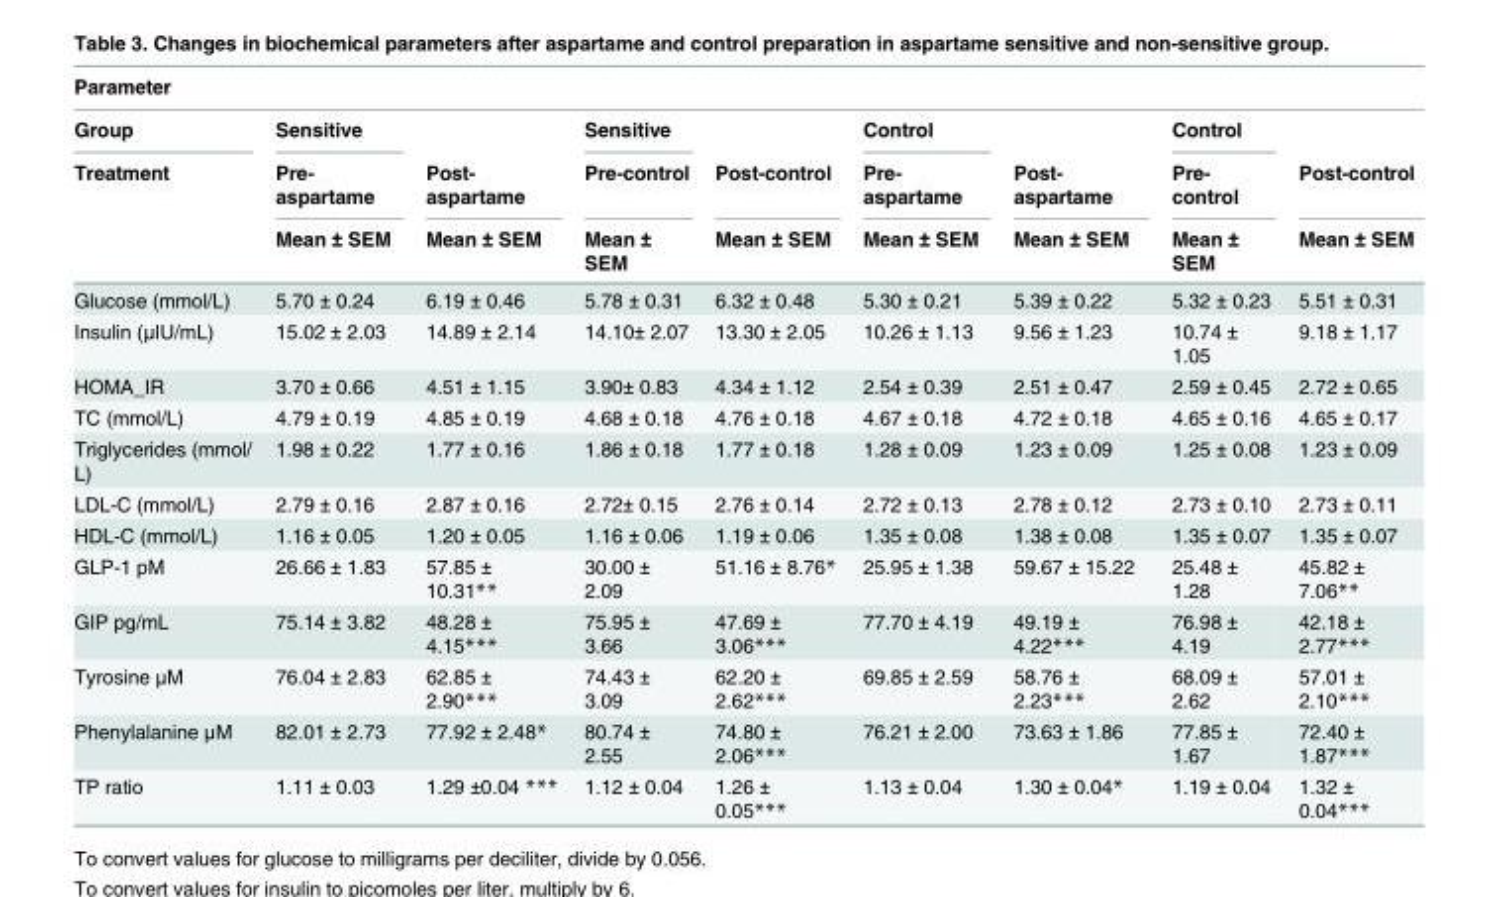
<table><thead><tr><td colspan="9">Parameter</td></tr><tr><td rowspan="3">Group Treatment</td><td rowspan="3">Sensitive Pre- aspartame Mean ± SEM</td><td rowspan="3">Post- aspartame Mean ± SEM</td><td rowspan="3">Sensitive Pre-control Mean ± SEM</td><td rowspan="3">Post-control Mean ± SEM</td><td rowspan="3">Control Pre- aspartame Mean ± SEM</td><td rowspan="3">Post- aspartame Mean ± SEM</td><td rowspan="3">Control Pre- control Mean ± SEM</td><td rowspan="3">Post-control Mean ± SEM</td></tr><tr></tr><tr></tr></thead><tbody><tr><td>Glucose (mmol/L)</td><td>5.70 ± 0.24</td><td>6.19 ± 0.46</td><td>5.78 ± 0.31</td><td>6.32 ± 0.48</td><td>5.30 ± 0.21</td><td>5.39 ± 0.22</td><td>5.32 ± 0.23</td><td>5.51 ± 0.31</td></tr><tr><td>Insulin (μIU/mL)</td><td>15.02 ± 2.03</td><td>14.89 ± 2.14</td><td>14.10± 2.07</td><td>13.30 ± 2.05</td><td>10.26 ± 1.13</td><td>9.56 ± 1.23</td><td>10.74 ± 1.05</td><td>9.18 ± 1.17</td></tr><tr><td>HOMA_IR</td><td>3.70 ± 0.66</td><td>4.51 ± 1.15</td><td>3.90± 0.83</td><td>4.34 ± 1.12</td><td>2.54 ± 0.39</td><td>2.51 ± 0.47</td><td>2.59 ± 0.45</td><td>2.72 ± 0.65</td></tr><tr><td>TC (mmol/L)</td><td>4.79 ± 0.19</td><td>4.85 ± 0.19</td><td>4.68 ± 0.18</td><td>4.76 ± 0.18</td><td>4.67 ± 0.18</td><td>4.72 ± 0.18</td><td>4.65 ± 0.16</td><td>4.65 ± 0.17</td></tr><tr><td>Triglycerides (mmol/ L)</td><td>1.98 ± 0.22</td><td>1.77 ± 0.16</td><td>1.86 ± 0.18</td><td>1.77 ± 0.18</td><td>1.28 ± 0.09</td><td>1.23 ± 0.09</td><td>1.25 ± 0.08</td><td>1.23 ± 0.09</td></tr><tr><td>LDL-C (mmol/L)</td><td>2.79 ± 0.16</td><td>2.87 ± 0.16</td><td>2.72± 0.15</td><td>2.76 ± 0.14</td><td>2.72 ± 0.13</td><td>2.78 ± 0.12</td><td>2.73 ± 0.10</td><td>2.73 ± 0.11</td></tr><tr><td>HDL-C (mmol/L)</td><td>1.16 ± 0.05</td><td>1.20 ± 0.05</td><td>1.16 ± 0.06</td><td>1.19 ± 0.06</td><td>1.35 ± 0.08</td><td>1.38 ± 0.08</td><td>1.35 ± 0.07</td><td>1.35 ± 0.07</td></tr><tr><td>GLP-1 pM</td><td>26.66 ± 1.83</td><td>57.85 ± 10.31**</td><td>30.00 ± 2.09</td><td>51.16 ± 8.76*</td><td>25.95 ± 1.38</td><td>59.67 ± 15.22</td><td>25.48 ± 1.28</td><td>45.82 ± 7.06**</td></tr><tr><td>GIP pg/mL</td><td>75.14 ± 3.82</td><td>48.28 ± 4.15***</td><td>75.95 ± 3.66</td><td>47.69 ± 3.06***</td><td>77.70 ± 4.19</td><td>49.19 ± 4.22***</td><td>76.98 ± 4.19</td><td>42.18 ± 2.77***</td></tr><tr><td>Tyrosine μM</td><td>76.04 ± 2.83</td><td>62.85 ± 2.90***</td><td>74.43 ± 3.09</td><td>62.20 ± 2.62***</td><td>69.85 ± 2.59</td><td>58.76 ± 2.23***</td><td>68.09 ± 2.62</td><td>57.01 ± 2.10***</td></tr><tr><td>Phenylalanine μM</td><td>82.01 ± 2.73</td><td>77.92 ± 2.48*</td><td>80.74 ± 2.55</td><td>74.80 ± 2.06***</td><td>76.21 ± 2.00</td><td>73.63 ± 1.86</td><td>77.85 ± 1.67</td><td>72.40 ± 1.87***</td></tr><tr><td>TP ratio</td><td>1.11 ± 0.03</td><td>1.29 ±0.04 ***</td><td>1.12 ± 0.04</td><td>1.26 ± 0.05***</td><td>1.13 ± 0.04</td><td>1.30 ± 0.04*</td><td>1.19 ± 0.04</td><td>1.32 ± 0.04***</td></tr></tbody></table>